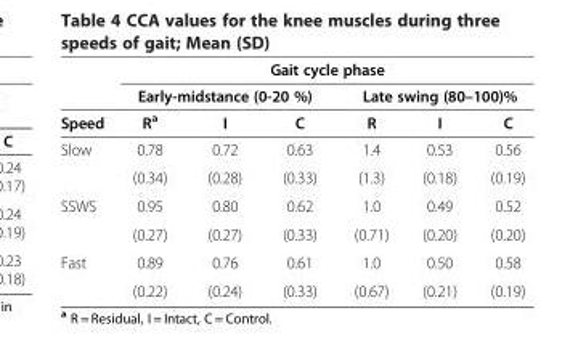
<table><thead><tr><td rowspan="3">Speed</td><td colspan="6">Gait cycle phase</td></tr><tr><td colspan="3">Early-midstance (0-20 %)</td><td colspan="3">Late swing (80–100)%</td></tr><tr><td>R<sup>a</sup></td><td>I</td><td>C</td><td>R</td><td>I</td><td>C</td></tr></thead><tbody><tr><td rowspan="2">Slow</td><td>0.78</td><td>0.72</td><td>0.63</td><td>1.4</td><td>0.53</td><td>0.56</td></tr><tr><td>(0.34)</td><td>(0.28)</td><td>(0.33)</td><td>(1.3)</td><td>(0.18)</td><td>(0.19)</td></tr><tr><td rowspan="2">SSWS</td><td>0.95</td><td>0.80</td><td>0.62</td><td>1.0</td><td>0.49</td><td>0.52</td></tr><tr><td>(0.27)</td><td>(0.27)</td><td>(0.33)</td><td>(0.71)</td><td>(0.20)</td><td>(0.20)</td></tr><tr><td rowspan="2">Fast</td><td>0.89</td><td>0.76</td><td>0.61</td><td>1.0</td><td>0.50</td><td>0.58</td></tr><tr><td>(0.22)</td><td>(0.24)</td><td>(0.33)</td><td>(0.67)</td><td>(0.21)</td><td>(0.19)</td></tr></tbody></table>